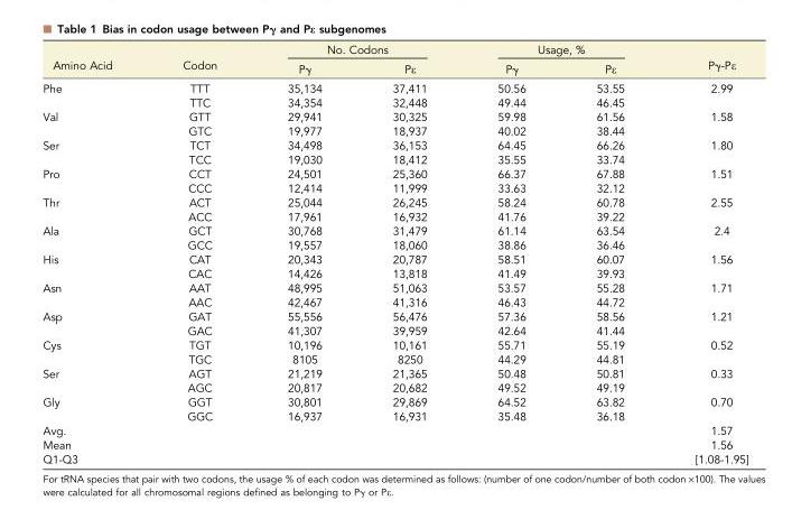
<table><thead><tr><td rowspan="2">Amino Acid</td><td rowspan="2">Codon</td><td colspan="2">No. Codons</td><td colspan="2">Usage, %</td><td rowspan="2">Pγ-Pε</td></tr><tr><td>Pγ</td><td>Pε</td><td>Pγ</td><td>Pε</td></tr></thead><tbody><tr><td rowspan="2">Phe</td><td>TTT</td><td>35,134</td><td>37,411</td><td>50.56</td><td>53.55</td><td>2.99</td></tr><tr><td>TTC</td><td>34,354</td><td>32,448</td><td>49.44</td><td>46.45</td><td></td></tr><tr><td rowspan="2">Val</td><td>GTT</td><td>29,941</td><td>30,325</td><td>59.98</td><td>61.56</td><td>1.58</td></tr><tr><td>GTC</td><td>19,977</td><td>18,937</td><td>40.02</td><td>38.44</td><td></td></tr><tr><td rowspan="2">Ser</td><td>TCT</td><td>34,498</td><td>36,153</td><td>64.45</td><td>66.26</td><td>1.80</td></tr><tr><td>TCC</td><td>19,030</td><td>18,412</td><td>35.55</td><td>33.74</td><td></td></tr><tr><td rowspan="2">Pro</td><td>CCT</td><td>24,501</td><td>25,360</td><td>66.37</td><td>67.88</td><td>1.51</td></tr><tr><td>CCC</td><td>12,414</td><td>11,999</td><td>33.63</td><td>32.12</td><td></td></tr><tr><td rowspan="2">Thr</td><td>ACT</td><td>25,044</td><td>26,245</td><td>58.24</td><td>60.78</td><td>2.55</td></tr><tr><td>ACC</td><td>17,961</td><td>16,932</td><td>41.76</td><td>39.22</td><td></td></tr><tr><td rowspan="2">Ala</td><td>GCT</td><td>30,768</td><td>31,479</td><td>61.14</td><td>63.54</td><td>2.4</td></tr><tr><td>GCC</td><td>19,557</td><td>18,060</td><td>38.86</td><td>36.46</td><td></td></tr><tr><td rowspan="2">His</td><td>CAT</td><td>20,343</td><td>20,787</td><td>58.51</td><td>60.07</td><td>1.56</td></tr><tr><td>CAC</td><td>14,426</td><td>13,818</td><td>41.49</td><td>39.93</td><td></td></tr><tr><td rowspan="2">Asn</td><td>AAT</td><td>48,995</td><td>51,063</td><td>53.57</td><td>55.28</td><td>1.71</td></tr><tr><td>AAC</td><td>42,467</td><td>41,316</td><td>46.43</td><td>44.72</td><td></td></tr><tr><td rowspan="2">Asp</td><td>GAT</td><td>55,556</td><td>56,476</td><td>57.36</td><td>58.56</td><td>1.21</td></tr><tr><td>GAC</td><td>41,307</td><td>39,959</td><td>42.64</td><td>41.44</td><td></td></tr><tr><td rowspan="2">Cys</td><td>TGT</td><td>10,196</td><td>10,161</td><td>55.71</td><td>55.19</td><td>0.52</td></tr><tr><td>TGC</td><td>8105</td><td>8250</td><td>44.29</td><td>44.81</td><td></td></tr><tr><td rowspan="2">Ser</td><td>AGT</td><td>21,219</td><td>21,365</td><td>50.48</td><td>50.81</td><td>0.33</td></tr><tr><td>AGC</td><td>20,817</td><td>20,682</td><td>49.52</td><td>49.19</td><td></td></tr><tr><td rowspan="2">Gly</td><td>GGT</td><td>30,801</td><td>29,869</td><td>64.52</td><td>63.82</td><td>0.70</td></tr><tr><td>GGC</td><td>16,937</td><td>16,931</td><td>35.48</td><td>36.18</td><td></td></tr><tr><td>Avg.</td><td></td><td></td><td></td><td></td><td></td><td>1.57</td></tr><tr><td>Mean</td><td></td><td></td><td></td><td></td><td></td><td>1.56</td></tr><tr><td>Q1-Q3</td><td></td><td></td><td></td><td></td><td></td><td>[1.08-1.95]</td></tr></tbody></table>